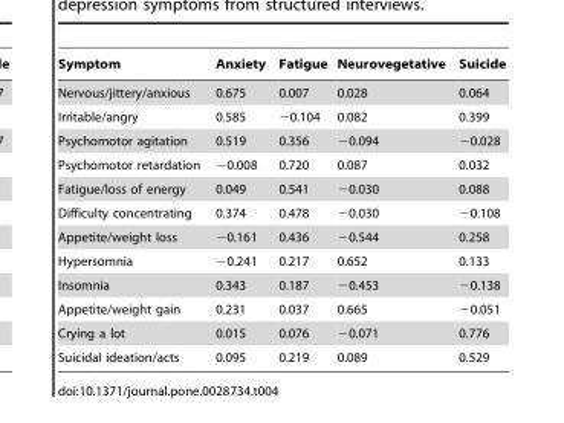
<table><thead><tr><td>Symptom</td><td>Anxiety</td><td>Fatigue</td><td>Neurovegetative</td><td>Suicide</td></tr></thead><tbody><tr><td>Nervous/jittery/anxious</td><td>0.675</td><td>0.007</td><td>0.028</td><td>0.064</td></tr><tr><td>Irritable/angry</td><td>0.585</td><td>−0.104</td><td>0.082</td><td>0.399</td></tr><tr><td>Psychomotor agitation</td><td>0.519</td><td>0.356</td><td>−0.094</td><td>−0.028</td></tr><tr><td>Psychomotor retardation</td><td>−0.008</td><td>0.720</td><td>0.087</td><td>0.032</td></tr><tr><td>Fatigue/loss of energy</td><td>0.049</td><td>0.541</td><td>−0.030</td><td>0.088</td></tr><tr><td>Difficulty concentrating</td><td>0.374</td><td>0.478</td><td>−0.030</td><td>−0.108</td></tr><tr><td>Appetite/weight loss</td><td>−0.161</td><td>0.436</td><td>−0.544</td><td>0.258</td></tr><tr><td>Hypersomnia</td><td>−0.241</td><td>0.217</td><td>0.652</td><td>0.133</td></tr><tr><td>Insomnia</td><td>0.343</td><td>0.187</td><td>−0.453</td><td>−0.138</td></tr><tr><td>Appetite/weight gain</td><td>0.231</td><td>0.037</td><td>0.665</td><td>−0.051</td></tr><tr><td>Crying a lot</td><td>0.015</td><td>0.076</td><td>−0.071</td><td>0.776</td></tr><tr><td>Suicidal ideation/acts</td><td>0.095</td><td>0.219</td><td>0.089</td><td>0.529</td></tr></tbody></table>